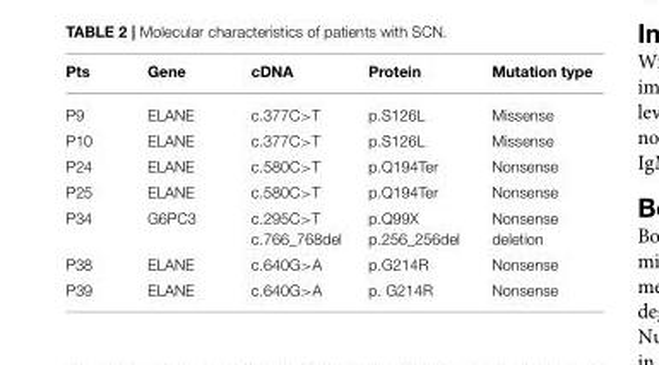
<table><thead><tr><td>Pts</td><td>Gene</td><td>cDNA</td><td>Protein</td><td>Mutation type</td></tr></thead><tbody><tr><td>P9</td><td>ELANE</td><td>c.377C&gt;T</td><td>p.S126L</td><td>Missense</td></tr><tr><td>P10</td><td>ELANE</td><td>c.377C&gt;T</td><td>p.S126L</td><td>Missense</td></tr><tr><td>P24</td><td>ELANE</td><td>c.580C&gt;T</td><td>p.Q194Ter</td><td>Nonsense</td></tr><tr><td>P25</td><td>ELANE</td><td>c.580C&gt;T</td><td>p.Q194Ter</td><td>Nonsense</td></tr><tr><td>P34</td><td>G6PC3</td><td>c.295C&gt;T c.766_768del</td><td>p.Q99X p.256_256del</td><td>Nonsense deletion</td></tr><tr><td>P38</td><td>ELANE</td><td>c.640G&gt;A</td><td>p.G214R</td><td>Nonsense</td></tr><tr><td>P39</td><td>ELANE</td><td>c.640G&gt;A</td><td>p. G214R</td><td>Nonsense</td></tr></tbody></table>